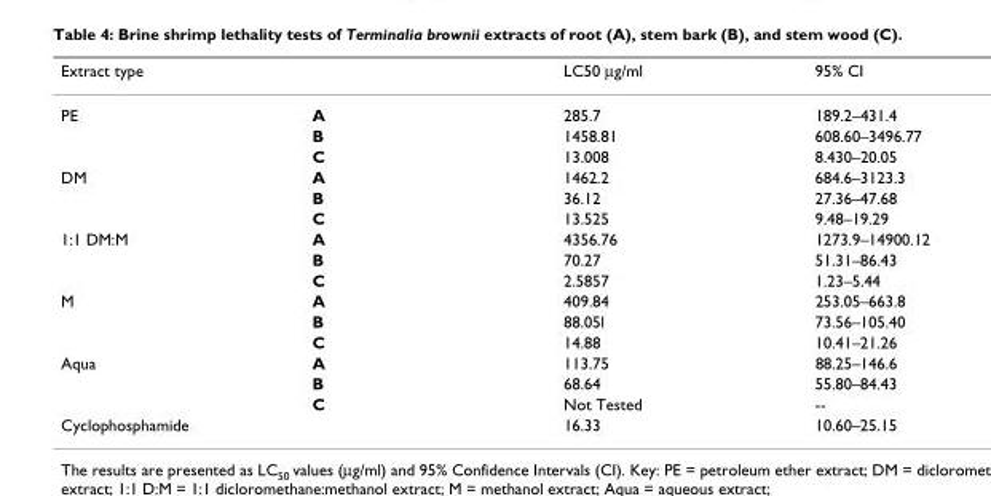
<table><thead><tr><td>Extract type</td><td></td><td>LC50 μg/ml</td><td>95% CI</td></tr></thead><tbody><tr><td rowspan="3">PE</td><td>A</td><td>285.7</td><td>189.2–431.4</td></tr><tr><td>B</td><td>1458.81</td><td>608.60–3496.77</td></tr><tr><td>C</td><td>13.008</td><td>8.430–20.05</td></tr><tr><td rowspan="3">DM</td><td>A</td><td>1462.2</td><td>684.6–3123.3</td></tr><tr><td>B</td><td>36.12</td><td>27.36–47.68</td></tr><tr><td>C</td><td>13.525</td><td>9.48–19.29</td></tr><tr><td rowspan="3">1:1 DM:M</td><td>A</td><td>4356.76</td><td>1273.9–14900.12</td></tr><tr><td>B</td><td>70.27</td><td>51.31–86.43</td></tr><tr><td>C</td><td>2.5857</td><td>1.23–5.44</td></tr><tr><td rowspan="3">M</td><td>A</td><td>409.84</td><td>253.05–663.8</td></tr><tr><td>B</td><td>88.05l</td><td>73.56–105.40</td></tr><tr><td>C</td><td>14.88</td><td>10.41–21.26</td></tr><tr><td rowspan="3">Aqua</td><td>A</td><td>113.75</td><td>88.25–146.6</td></tr><tr><td>B</td><td>68.64</td><td>55.80–84.43</td></tr><tr><td>C</td><td>Not Tested</td><td>--</td></tr><tr><td>Cyclophosphamide</td><td></td><td>16.33</td><td>10.60–25.15</td></tr></tbody></table>